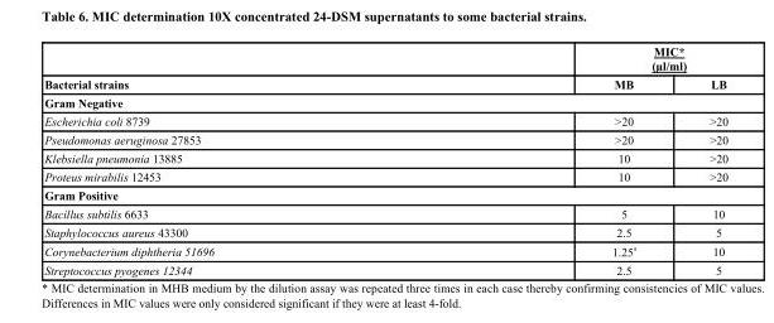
<table><thead><tr><td rowspan="2">Bacterial strains</td><td colspan="2">MIC* (µl/ml)</td></tr><tr><td>MB</td><td>LB</td></tr></thead><tbody><tr><td colspan="3">Gram Negative</td></tr><tr><td>Escherichia coli 8739</td><td>&gt;20</td><td>&gt;20</td></tr><tr><td>Pseudomonas aeruginosa 27853</td><td>&gt;20</td><td>&gt;20</td></tr><tr><td>Klebsiella pneumonia 13885</td><td>10</td><td>&gt;20</td></tr><tr><td>Proteus mirabilis 12453</td><td>10</td><td>&gt;20</td></tr><tr><td colspan="3">Gram Positive</td></tr><tr><td>Bacillus subtilis 6633</td><td>5</td><td>10</td></tr><tr><td>Staphylococcus aureus 43300</td><td>2.5</td><td>5</td></tr><tr><td>Corynebacterium diphtheria 51696</td><td>1.25 <sup>a</sup></td><td>10</td></tr><tr><td>Streptococcus pyogenes 12344</td><td>2.5</td><td>5</td></tr></tbody></table>